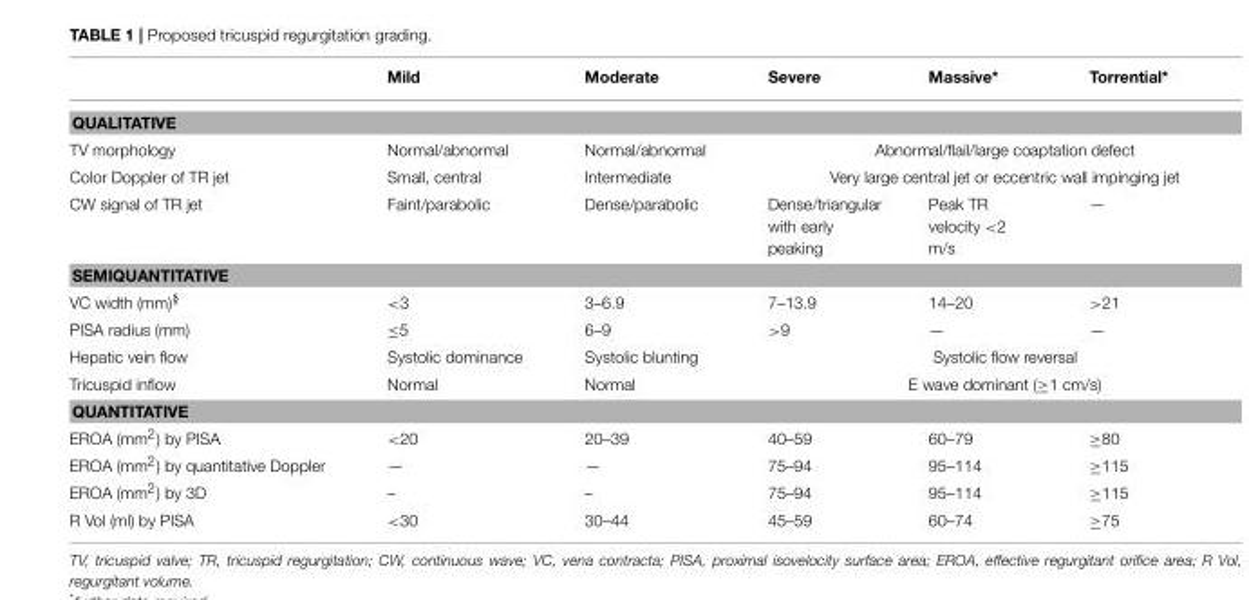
<table><thead><tr><td></td><td>Mild</td><td>Moderate</td><td>Severe</td><td>Massive*</td><td>Torrential*</td></tr></thead><tbody><tr><td colspan="6">QUALITATIVE</td></tr><tr><td>TV morphology</td><td>Normal/abnormal</td><td>Normal/abnormal</td><td colspan="3">Abnormal/flail/large coaptation defect</td></tr><tr><td>Color Doppler of TR jet</td><td>Small, central</td><td>Intermediate</td><td colspan="3">Very large central jet or eccentric wall impinging jet</td></tr><tr><td>CW signal of TR jet</td><td>Faint/parabolic</td><td>Dense/parabolic</td><td>Dense/triangular with early peaking</td><td>Peak TR velocity &lt;2 m/s</td><td>—</td></tr><tr><td colspan="6">SEMIQUANTITATIVE</td></tr><tr><td>VC width (mm)<sup>§</sup></td><td>&lt;3</td><td>3–6.9</td><td>7–13.9</td><td>14–20</td><td>&gt;21</td></tr><tr><td>PISA radius (mm)</td><td>≤5</td><td>6–9</td><td>&gt;9</td><td>—</td><td>—</td></tr><tr><td>Hepatic vein flow</td><td>Systolic dominance</td><td>Systolic blunting</td><td colspan="3">Systolic flow reversal</td></tr><tr><td>Tricuspid inflow</td><td>Normal</td><td>Normal</td><td colspan="3">E wave dominant (≥1 cm/s)</td></tr><tr><td colspan="6">QUANTITATIVE</td></tr><tr><td>EROA (mm<sup>2</sup>) by PISA</td><td>&lt;20</td><td>20–39</td><td>40–59</td><td>60–79</td><td>≥80</td></tr><tr><td>EROA (mm<sup>2</sup>) by quantitative Doppler</td><td>—</td><td>—</td><td>75–94</td><td>95–114</td><td>≥115</td></tr><tr><td>EROA (mm<sup>2</sup>) by 3D</td><td>–</td><td>–</td><td>75–94</td><td>95–114</td><td>≥115</td></tr><tr><td>R Vol (ml) by PISA</td><td>&lt;30</td><td>30–44</td><td>45–59</td><td>60–74</td><td>≥75</td></tr></tbody></table>